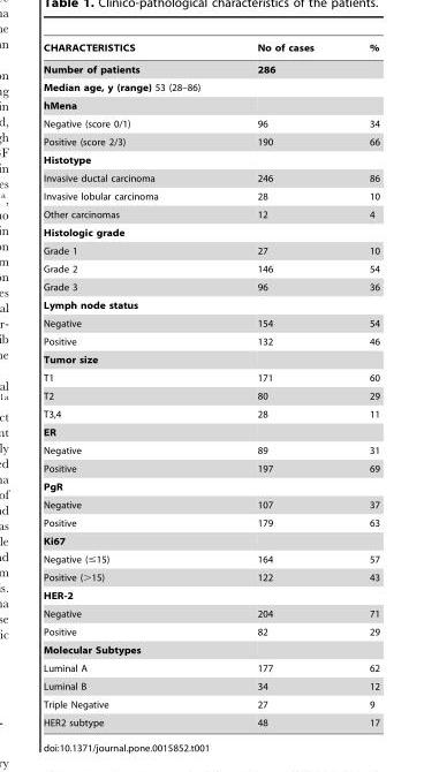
<table><thead><tr><td>CHARACTERISTICS</td><td>No of cases</td><td>%</td></tr></thead><tbody><tr><td>Number of patients</td><td>286</td><td></td></tr><tr><td colspan="3">Median age, y (range) 53 (28–86)</td></tr><tr><td colspan="3">hMena</td></tr><tr><td>Negative (score 0/1)</td><td>96</td><td>34</td></tr><tr><td>Positive (score 2/3)</td><td>190</td><td>66</td></tr><tr><td colspan="3">Histotype</td></tr><tr><td>Invasive ductal carcinoma</td><td>246</td><td>86</td></tr><tr><td>Invasive lobular carcinoma</td><td>28</td><td>10</td></tr><tr><td>Other carcinomas</td><td>12</td><td>4</td></tr><tr><td colspan="3">Histologic grade</td></tr><tr><td>Grade 1</td><td>27</td><td>10</td></tr><tr><td>Grade 2</td><td>146</td><td>54</td></tr><tr><td>Grade 3</td><td>96</td><td>36</td></tr><tr><td colspan="3">Lymph node status</td></tr><tr><td>Negative</td><td>154</td><td>54</td></tr><tr><td>Positive</td><td>132</td><td>46</td></tr><tr><td colspan="3">Tumor size</td></tr><tr><td>T1</td><td>171</td><td>60</td></tr><tr><td>T2</td><td>80</td><td>29</td></tr><tr><td>T3,4</td><td>28</td><td>11</td></tr><tr><td colspan="3">ER</td></tr><tr><td>Negative</td><td>89</td><td>31</td></tr><tr><td>Positive</td><td>197</td><td>69</td></tr><tr><td colspan="3">PgR</td></tr><tr><td>Negative</td><td>107</td><td>37</td></tr><tr><td>Positive</td><td>179</td><td>63</td></tr><tr><td colspan="3">Ki67</td></tr><tr><td>Negative (≤15)</td><td>164</td><td>57</td></tr><tr><td>Positive (&gt;15)</td><td>122</td><td>43</td></tr><tr><td colspan="3">HER-2</td></tr><tr><td>Negative</td><td>204</td><td>71</td></tr><tr><td>Positive</td><td>82</td><td>29</td></tr><tr><td colspan="3">Molecular Subtypes</td></tr><tr><td>Luminal A</td><td>177</td><td>62</td></tr><tr><td>Luminal B</td><td>34</td><td>12</td></tr><tr><td>Triple Negative</td><td>27</td><td>9</td></tr><tr><td>HER2 subtype</td><td>48</td><td>17</td></tr></tbody></table>